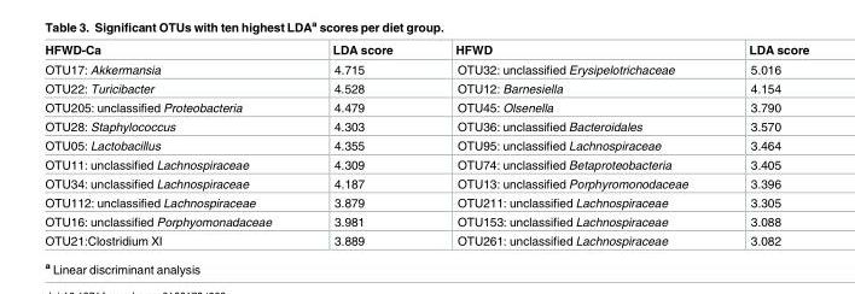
<table><thead><tr><td>HFWD-Ca</td><td>LDA score</td><td>HFWD</td><td>LDA score</td></tr></thead><tbody><tr><td>OTU17: Akkermansia</td><td>4.715</td><td>OTU32: unclassified Erysipelotrichaceae</td><td>5.016</td></tr><tr><td>OTU22: Turicibacter</td><td>4.528</td><td>OTU12: Barnesiella</td><td>4.154</td></tr><tr><td>OTU205: unclassified Proteobacteria</td><td>4.479</td><td>OTU45: Olsenella</td><td>3.790</td></tr><tr><td>OTU28: Staphylococcus</td><td>4.303</td><td>OTU36: unclassified Bacteroidales</td><td>3.570</td></tr><tr><td>OTU05: Lactobacillus</td><td>4.355</td><td>OTU95: unclassified Lachnospiraceae</td><td>3.464</td></tr><tr><td>OTU11: unclassified Lachnospiraceae</td><td>4.309</td><td>OTU74: unclassified Betaproteobacteria</td><td>3.405</td></tr><tr><td>OTU34: unclassified Lachnospiraceae</td><td>4.187</td><td>OTU13: unclassified Porphyromonodaceae</td><td>3.396</td></tr><tr><td>OTU112: unclassified Lachnospiraceae</td><td>3.879</td><td>OTU211: unclassified Lachnospiraceae</td><td>3.305</td></tr><tr><td>OTU16: unclassified Porphyomonadaceae</td><td>3.981</td><td>OTU153: unclassified Lachnospiraceae</td><td>3.088</td></tr><tr><td>OTU21:Clostridium XI</td><td>3.889</td><td>OTU261: unclassified Lachnospiraceae</td><td>3.082</td></tr></tbody></table>